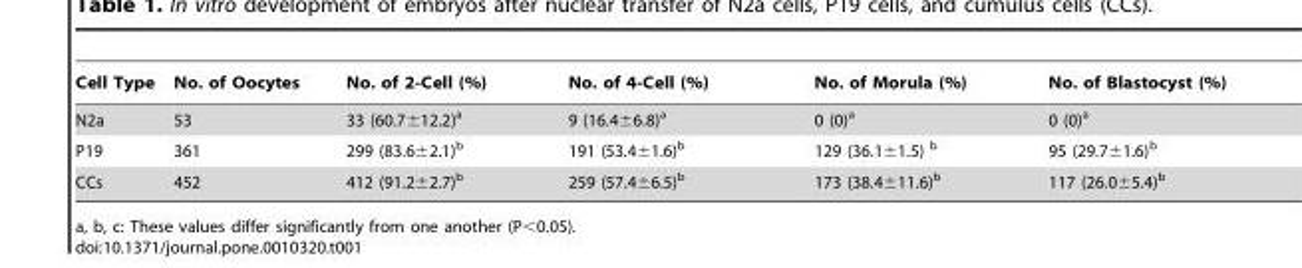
<table><thead><tr><td>Cell Type</td><td>No. of Oocytes</td><td>No. of 2-Cell (%)</td><td>No. of 4-Cell (%)</td><td>No. of Morula (%)</td><td>No. of Blastocyst (%)</td></tr></thead><tbody><tr><td>N2a</td><td>53</td><td>33 (60.7±12.2)<sup>a</sup></td><td>9 (16.4±6.8)<sup>a</sup></td><td>0 (0)<sup>a</sup></td><td>0 (0)<sup>a</sup></td></tr><tr><td>P19</td><td>361</td><td>299 (83.6±2.1)<sup>b</sup></td><td>191 (53.4±1.6)<sup>b</sup></td><td>129 (36.1±1.5) <sup>b</sup></td><td>95 (29.7±1.6)<sup>b</sup></td></tr><tr><td>CCs</td><td>452</td><td>412 (91.2±2.7)<sup>b</sup></td><td>259 (57.4±6.5)<sup>b</sup></td><td>173 (38.4±11.6)<sup>b</sup></td><td>117 (26.0±5.4)<sup>b</sup></td></tr></tbody></table>